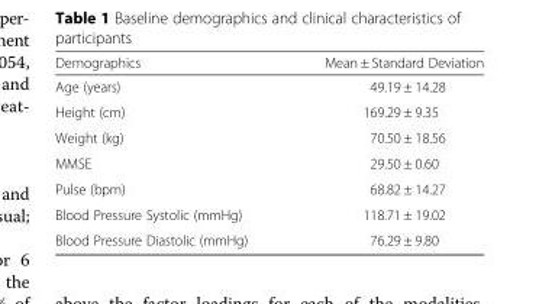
<table><thead><tr><td>Demographics</td><td>Mean ± Standard Deviation</td></tr></thead><tbody><tr><td>Age (years)</td><td>49.19 ± 14.28</td></tr><tr><td>Height (cm)</td><td>169.29 ± 9.35</td></tr><tr><td>Weight (kg)</td><td>70.50 ± 18.56</td></tr><tr><td>MMSE</td><td>29.50 ± 0.60</td></tr><tr><td>Pulse (bpm)</td><td>68.82 ± 14.27</td></tr><tr><td>Blood Pressure Systolic (mmHg)</td><td>118.71 ± 19.02</td></tr><tr><td>Blood Pressure Diastolic (mmHg)</td><td>76.29 ± 9.80</td></tr></tbody></table>